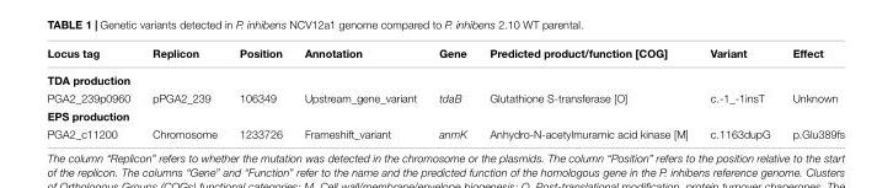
<table><thead><tr><td>Locus tag</td><td>Replicon</td><td>Position</td><td>Annotation</td><td>Gene</td><td>Predicted product/function [COG]</td><td>Variant</td><td>Effect</td></tr></thead><tbody><tr><td colspan="8">TDA production</td></tr><tr><td>PGA2_239p0960</td><td>pPGA2_239</td><td>106349</td><td>Upstream_gene_variant</td><td>tdaB</td><td>Glutathione S-transferase [O]</td><td>c.-1_-1insT</td><td>Unknown</td></tr><tr><td colspan="8">EPS production</td></tr><tr><td>PGA2_c11200</td><td>Chromosome</td><td>1233726</td><td>Frameshift_variant</td><td>anmK</td><td>Anhydro-N-acetylmuramic acid kinase [M]</td><td>c.1163dupG</td><td>p.Glu389fs</td></tr></tbody></table>